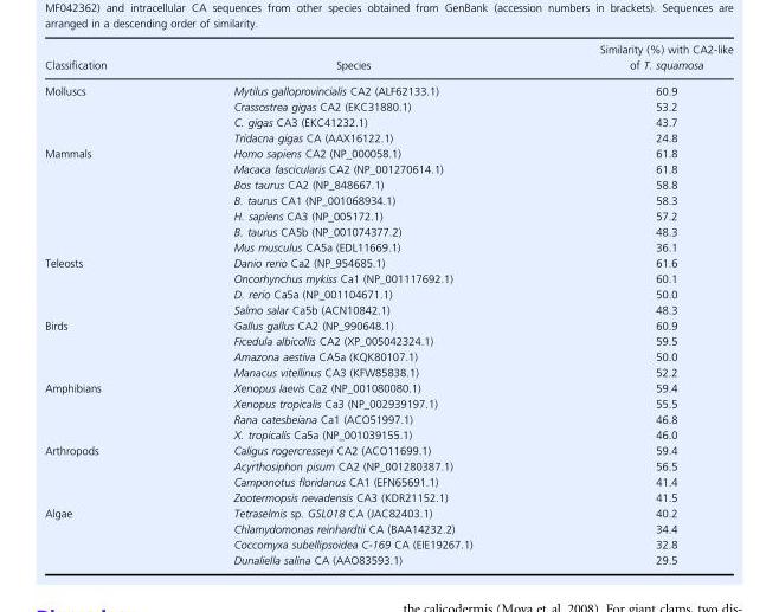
<table><thead><tr><td>Classification</td><td>Species</td><td>Similarity (%) with CA2-like of T. squamosa</td></tr></thead><tbody><tr><td rowspan="4">Molluscs</td><td>Mytilus galloprovincialis CA2 (ALF62133.1)</td><td>60.9</td></tr><tr><td>Crassostrea gigas CA2 (EKC31880.1)</td><td>53.2</td></tr><tr><td>C. gigas CA3 (EKC41232.1)</td><td>43.7</td></tr><tr><td>Tridacna gigas CA (AAX16122.1)</td><td>24.8</td></tr><tr><td rowspan="7">Mammals</td><td>Homo sapiens CA2 (NP_000058.1)</td><td>61.8</td></tr><tr><td>Macaca fascicularis CA2 (NP_001270614.1)</td><td>61.8</td></tr><tr><td>Bos taurus CA2 (NP_848667.1)</td><td>58.8</td></tr><tr><td>B. taurus CA1 (NP_001068934.1)</td><td>58.3</td></tr><tr><td>H. sapiens CA3 (NP_005172.1)</td><td>57.2</td></tr><tr><td>B. taurus CA5b (NP_001074377.2)</td><td>48.3</td></tr><tr><td>Mus musculus CA5a (EDL11669.1)</td><td>36.1</td></tr><tr><td rowspan="4">Teleosts</td><td>Danio rerio Ca2 (NP_954685.1)</td><td>61.6</td></tr><tr><td>Oncorhynchus mykiss Ca1 (NP_001117692.1)</td><td>60.1</td></tr><tr><td>D. rerio Ca5a (NP_001104671.1)</td><td>50.0</td></tr><tr><td>Salmo salar Ca5b (ACN10842.1)</td><td>48.3</td></tr><tr><td rowspan="4">Birds</td><td>Gallus gallus CA2 (NP_990648.1)</td><td>60.9</td></tr><tr><td>Ficedula albicollis CA2 (XP_005042324.1)</td><td>59.5</td></tr><tr><td>Amazona aestiva CA5a (KQK80107.1)</td><td>50.0</td></tr><tr><td>Manacus vitellinus CA3 (KFW85838.1)</td><td>52.2</td></tr><tr><td rowspan="4">Amphibians</td><td>Xenopus laevis Ca2 (NP_001080080.1)</td><td>59.4</td></tr><tr><td>Xenopus tropicalis Ca3 (NP_002939197.1)</td><td>55.5</td></tr><tr><td>Rana catesbeiana Ca1 (ACO51997.1)</td><td>46.8</td></tr><tr><td>X. tropicalis Ca5a (NP_001039155.1)</td><td>46.0</td></tr><tr><td rowspan="4">Arthropods</td><td>Caligus rogercresseyi CA2 (ACO11699.1)</td><td>59.4</td></tr><tr><td>Acyrthosiphon pisum CA2 (NP_001280387.1)</td><td>56.5</td></tr><tr><td>Camponotus floridanus CA1 (EFN65691.1)</td><td>41.4</td></tr><tr><td>Zootermopsis nevadensis CA3 (KDR21152.1)</td><td>41.5</td></tr><tr><td rowspan="4">Algae</td><td>Tetraselmis sp. GSL018 CA (JAC82403.1)</td><td>40.2</td></tr><tr><td>Chlamydomonas reinhardtii CA (BAA14232.2)</td><td>34.4</td></tr><tr><td>Coccomyxa subellipsoidea C-169 CA (EIE19267.1)</td><td>32.8</td></tr><tr><td>Dunaliella salina CA (AAO83593.1)</td><td>29.5</td></tr></tbody></table>